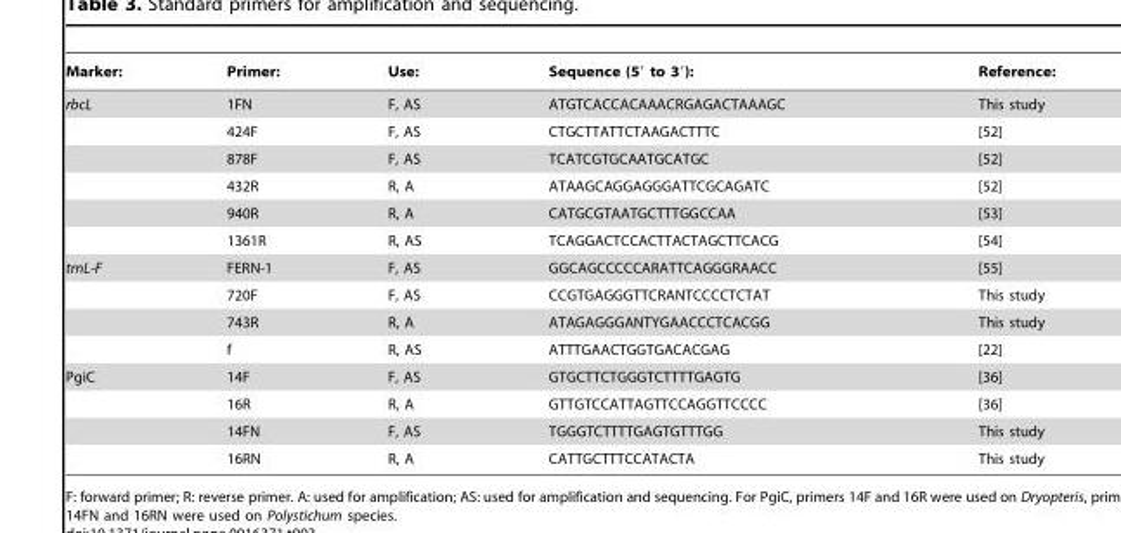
<table><thead><tr><td>Marker:</td><td>Primer:</td><td>Use:</td><td>Sequence (5′ to 3′):</td><td>Reference:</td></tr></thead><tbody><tr><td rowspan="6">rbcL</td><td>1FN</td><td>F, AS</td><td>ATGTCACCACAAACRGAGACTAAAGC</td><td>This study</td></tr><tr><td>424F</td><td>F, AS</td><td>CTGCTTATTCTAAGACTTTC</td><td>[52]</td></tr><tr><td>878F</td><td>F, AS</td><td>TCATCGTGCAATGCATGC</td><td>[52]</td></tr><tr><td>432R</td><td>R, A</td><td>ATAAGCAGGAGGGATTCGCAGATC</td><td>[52]</td></tr><tr><td>940R</td><td>R, A</td><td>CATGCGTAATGCTTTGGCCAA</td><td>[53]</td></tr><tr><td>1361R</td><td>R, AS</td><td>TCAGGACTCCACTTACTAGCTTCACG</td><td>[54]</td></tr><tr><td rowspan="4">trnL-F</td><td>FERN-1</td><td>F, AS</td><td>GGCAGCCCCCARATTCAGGGRAACC</td><td>[55]</td></tr><tr><td>720F</td><td>F, AS</td><td>CCGTGAGGGTTCRANTCCCCTCTAT</td><td>This study</td></tr><tr><td>743R</td><td>R, A</td><td>ATAGAGGGANTYGAACCCTCACGG</td><td>This study</td></tr><tr><td>f</td><td>R, AS</td><td>ATTTGAACTGGTGACACGAG</td><td>[22]</td></tr><tr><td rowspan="4">PgiC</td><td>14F</td><td>F, AS</td><td>GTGCTTCTGGGTCTTTTGAGTG</td><td>[36]</td></tr><tr><td>16R</td><td>R, A</td><td>GTTGTCCATTAGTTCCAGGTTCCCC</td><td>[36]</td></tr><tr><td>14FN</td><td>F, AS</td><td>TGGGTCTTTTGAGTGTTTGG</td><td>This study</td></tr><tr><td>16RN</td><td>R, A</td><td>CATTGCTTTCCATACTA</td><td>This study</td></tr></tbody></table>